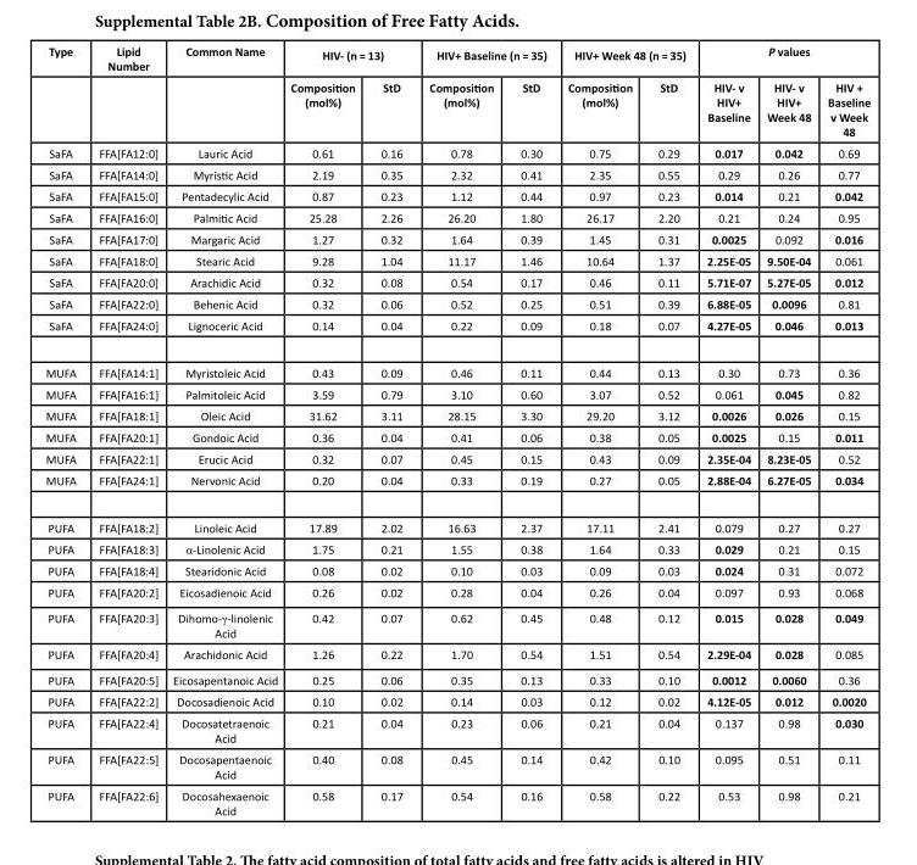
<table><thead><tr><td rowspan="2">Type</td><td rowspan="2">Lipid Number</td><td rowspan="2">Common Name</td><td colspan="2">HIV- (n = 13)</td><td colspan="2">HIV+ Baseline (n = 35)</td><td colspan="2">HIV+ Week 48 (n = 35)</td><td colspan="3">P values</td></tr><tr><td>Composition (mol%)</td><td>StD</td><td>Composition (mol%)</td><td>StD</td><td>Composition (mol%)</td><td>StD</td><td>HIV- v HIV+ Baseline</td><td>HIV- v HIV+ Week 48</td><td>HIV + Baseline v Week 48</td></tr></thead><tbody><tr><td>SaFA</td><td>FFA[FA12:0]</td><td>Lauric Acid</td><td>0.61</td><td>0.16</td><td>0.78</td><td>0.30</td><td>0.75</td><td>0.29</td><td>0.017</td><td>0.042</td><td>0.69</td></tr><tr><td>SaFA</td><td>FFA[FA14:0]</td><td>Myristic Acid</td><td>2.19</td><td>0.35</td><td>2.32</td><td>0.41</td><td>2.35</td><td>0.55</td><td>0.29</td><td>0.26</td><td>0.77</td></tr><tr><td>SaFA</td><td>FFA[FA15:0]</td><td>Pentadecylic Acid</td><td>0.87</td><td>0.23</td><td>1.12</td><td>0.44</td><td>0.97</td><td>0.23</td><td>0.014</td><td>0.21</td><td>0.042</td></tr><tr><td>SaFA</td><td>FFA[FA16:0]</td><td>Palmitic Acid</td><td>25.28</td><td>2.26</td><td>26.20</td><td>1.80</td><td>26.17</td><td>2.20</td><td>0.21</td><td>0.24</td><td>0.95</td></tr><tr><td>SaFA</td><td>FFA[FA17:0]</td><td>Margaric Acid</td><td>1.27</td><td>0.32</td><td>1.64</td><td>0.39</td><td>1.45</td><td>0.31</td><td>0.0025</td><td>0.092</td><td>0.016</td></tr><tr><td>SaFA</td><td>FFA[FA18:0]</td><td>Stearic Acid</td><td>9.28</td><td>1.04</td><td>11.17</td><td>1.46</td><td>10.64</td><td>1.37</td><td>2.25E-05</td><td>9.50E-04</td><td>0.061</td></tr><tr><td>SaFA</td><td>FFA[FA20:0]</td><td>Arachidic Acid</td><td>0.32</td><td>0.08</td><td>0.54</td><td>0.17</td><td>0.46</td><td>0.11</td><td>5.71E-07</td><td>5.27E-05</td><td>0.012</td></tr><tr><td>SaFA</td><td>FFA[FA22:0]</td><td>Behenic Acid</td><td>0.32</td><td>0.06</td><td>0.52</td><td>0.25</td><td>0.51</td><td>0.39</td><td>6.88E-05</td><td>0.0096</td><td>0.81</td></tr><tr><td>SaFA</td><td>FFA[FA24:0]</td><td>Lignoceric Acid</td><td>0.14</td><td>0.04</td><td>0.22</td><td>0.09</td><td>0.18</td><td>0.07</td><td>4.27E-05</td><td>0.046</td><td>0.013</td></tr><tr><td>MUFA</td><td>FFA[FA14:1]</td><td>Myristoleic Acid</td><td>0.43</td><td>0.09</td><td>0.46</td><td>0.11</td><td>0.44</td><td>0.13</td><td>0.30</td><td>0.73</td><td>0.36</td></tr><tr><td>MUFA</td><td>FFA[FA16:1]</td><td>Palmitoleic Acid</td><td>3.59</td><td>0.79</td><td>3.10</td><td>0.60</td><td>3.07</td><td>0.52</td><td>0.061</td><td>0.045</td><td>0.82</td></tr><tr><td>MUFA</td><td>FFA[FA18:1]</td><td>Oleic Acid</td><td>31.62</td><td>3.11</td><td>28.15</td><td>3.30</td><td>29.20</td><td>3.12</td><td>0.0026</td><td>0.026</td><td>0.15</td></tr><tr><td>MUFA</td><td>FFA[FA20:1]</td><td>Gondoic Acid</td><td>0.36</td><td>0.04</td><td>0.41</td><td>0.06</td><td>0.38</td><td>0.05</td><td>0.0025</td><td>0.15</td><td>0.011</td></tr><tr><td>MUFA</td><td>FFA[FA22:1]</td><td>Erucic Acid</td><td>0.32</td><td>0.07</td><td>0.45</td><td>0.15</td><td>0.43</td><td>0.09</td><td>2.35E-04</td><td>8.23E-05</td><td>0.52</td></tr><tr><td>MUFA</td><td>FFA[FA24:1]</td><td>Nervonic Acid</td><td>0.20</td><td>0.04</td><td>0.33</td><td>0.19</td><td>0.27</td><td>0.05</td><td>2.88E-04</td><td>6.27E-05</td><td>0.034</td></tr><tr><td>PUFA</td><td>FFA[FA18:2]</td><td>Linoleic Acid</td><td>17.89</td><td>2.02</td><td>16.63</td><td>2.37</td><td>17.11</td><td>2.41</td><td>0.079</td><td>0.27</td><td>0.27</td></tr><tr><td>PUFA</td><td>FFA[FA18:3]</td><td>α-Linolenic Acid</td><td>1.75</td><td>0.21</td><td>1.55</td><td>0.38</td><td>1.64</td><td>0.33</td><td>0.029</td><td>0.21</td><td>0.15</td></tr><tr><td>PUFA</td><td>FFA[FA18:4]</td><td>Stearidonic Acid</td><td>0.08</td><td>0.02</td><td>0.10</td><td>0.03</td><td>0.09</td><td>0.03</td><td>0.024</td><td>0.31</td><td>0.072</td></tr><tr><td>PUFA</td><td>FFA[FA20:2]</td><td>Eicosadienoic Acid</td><td>0.26</td><td>0.02</td><td>0.28</td><td>0.04</td><td>0.26</td><td>0.04</td><td>0.097</td><td>0.93</td><td>0.068</td></tr><tr><td>PUFA</td><td>FFA[FA20:3]</td><td>Dihomo-γ-linolenic Acid</td><td>0.42</td><td>0.07</td><td>0.62</td><td>0.45</td><td>0.48</td><td>0.12</td><td>0.015</td><td>0.028</td><td>0.049</td></tr><tr><td>PUFA</td><td>FFA[FA20:4]</td><td>Arachidonic Acid</td><td>1.26</td><td>0.22</td><td>1.70</td><td>0.54</td><td>1.51</td><td>0.54</td><td>2.29E-04</td><td>0.028</td><td>0.085</td></tr><tr><td>PUFA</td><td>FFA[FA20:5]</td><td>Eicosapentanoic Acid</td><td>0.25</td><td>0.06</td><td>0.35</td><td>0.13</td><td>0.33</td><td>0.10</td><td>0.0012</td><td>0.0060</td><td>0.36</td></tr><tr><td>PUFA</td><td>FFA[FA22:2]</td><td>Docosadienoic Acid</td><td>0.10</td><td>0.02</td><td>0.14</td><td>0.03</td><td>0.12</td><td>0.02</td><td>4.12E-05</td><td>0.012</td><td>0.0020</td></tr><tr><td>PUFA</td><td>FFA[FA22:4]</td><td>Docosatetraenoic Acid</td><td>0.21</td><td>0.04</td><td>0.23</td><td>0.06</td><td>0.21</td><td>0.04</td><td>0.137</td><td>0.98</td><td>0.030</td></tr><tr><td>PUFA</td><td>FFA[FA22:5]</td><td>Docosapentaenoic Acid</td><td>0.40</td><td>0.08</td><td>0.45</td><td>0.14</td><td>0.42</td><td>0.10</td><td>0.095</td><td>0.51</td><td>0.11</td></tr><tr><td>PUFA</td><td>FFA[FA22:6]</td><td>Docosahexaenoic Acid</td><td>0.58</td><td>0.17</td><td>0.54</td><td>0.16</td><td>0.58</td><td>0.22</td><td>0.53</td><td>0.98</td><td>0.21</td></tr></tbody></table>